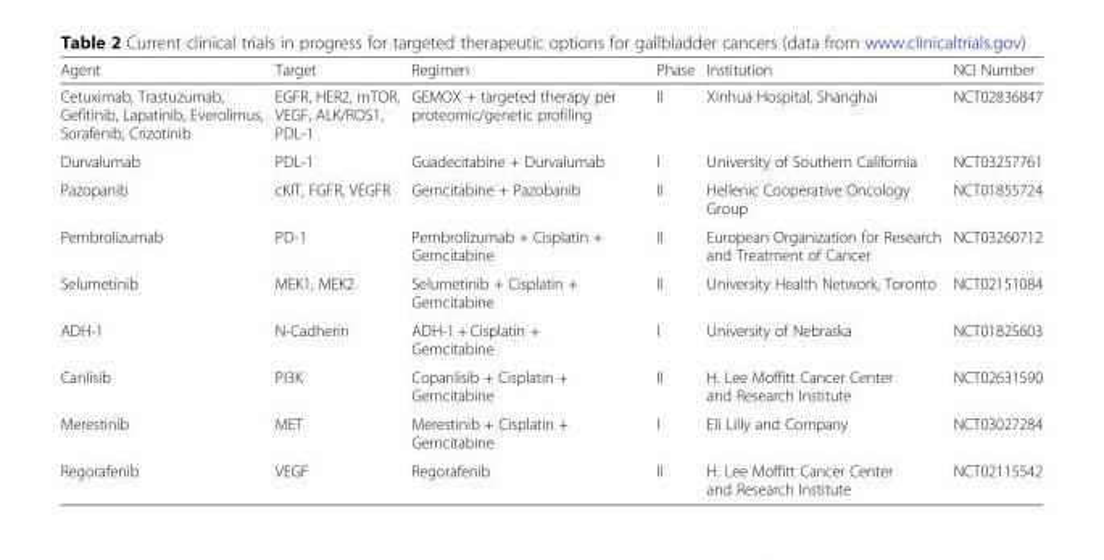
<table><thead><tr><td>Agent</td><td>Target</td><td>Regimen</td><td>Phase</td><td>Institution</td><td>NCI Number</td></tr></thead><tbody><tr><td>Cetuximab, Trastuzumab, Gefitinib, Lapatinib, Everolimus, Sorafenib, Crizotinib</td><td>EGFR, HER2, mTOR, VEGF, ALK/ROS1, PDL-1</td><td>GEMOX + targeted therapy per proteomic/genetic profiling</td><td>II</td><td>Xinhua Hospital, Shanghai</td><td>NCT02836847</td></tr><tr><td>Durvalumab</td><td>PDL-1</td><td>Guadecitabine + Durvalumab</td><td>I</td><td>University of Southern California</td><td>NCT03257761</td></tr><tr><td>Pazopanib</td><td>cKIT, FGFR, VEGFR</td><td>Gemcitabine + Pazobanib</td><td>II</td><td>Hellenic Cooperative Oncology Group</td><td>NCT01855724</td></tr><tr><td>Pembrolizumab</td><td>PD-1</td><td>Pembrolizumab + Cisplatin + Gemcitabine</td><td>II</td><td>European Organization for Research and Treatment of Cancer</td><td>NCT03260712</td></tr><tr><td>Selumetinib</td><td>MEK1, MEK2</td><td>Selumetinib + Cisplatin + Gemcitabine</td><td>II</td><td>University Health Network, Toronto</td><td>NCT02151084</td></tr><tr><td>ADH-1</td><td>N-Cadherin</td><td>ADH-1 + Cisplatin + Gemcitabine</td><td>I</td><td>University of Nebraska</td><td>NCT01825603</td></tr><tr><td>Canlisib</td><td>PI3K</td><td>Copanlisib + Cisplatin + Gemcitabine</td><td>II</td><td>H. Lee Moffitt Cancer Center and Research Institute</td><td>NCT02631590</td></tr><tr><td>Merestinib</td><td>MET</td><td>Merestinib + Cisplatin + Gemcitabine</td><td>I</td><td>Eli Lilly and Company</td><td>NCT03027284</td></tr><tr><td>Regorafenib</td><td>VEGF</td><td>Regorafenib</td><td>II</td><td>H. Lee Moffitt Cancer Center and Research Institute</td><td>NCT02115542</td></tr></tbody></table>